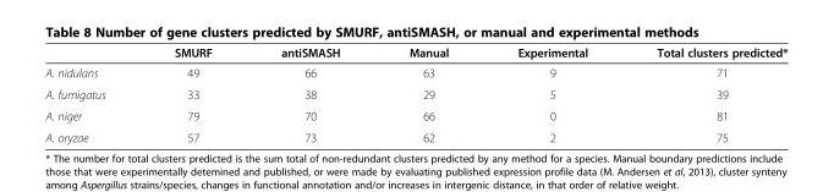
<table><thead><tr><td></td><td>SMURF</td><td>antiSMASH</td><td>Manual</td><td>Experimental</td><td>Total clusters predicted*</td></tr></thead><tbody><tr><td>A. nidulans</td><td>49</td><td>66</td><td>63</td><td>9</td><td>71</td></tr><tr><td>A. fumigatus</td><td>33</td><td>38</td><td>29</td><td>5</td><td>39</td></tr><tr><td>A. niger</td><td>79</td><td>70</td><td>66</td><td>0</td><td>81</td></tr><tr><td>A. oryzae</td><td>57</td><td>73</td><td>62</td><td>2</td><td>75</td></tr></tbody></table>